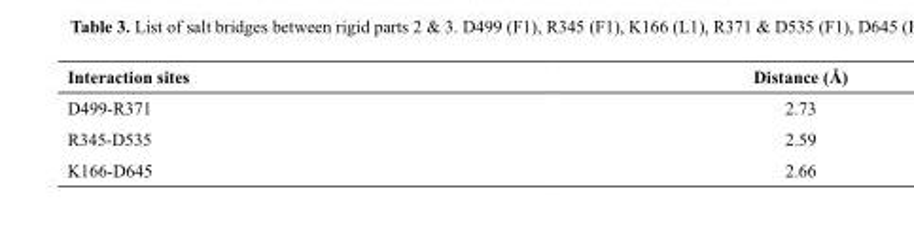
<table><thead><tr><td>Interaction sites</td><td>Distance (Å)</td></tr></thead><tbody><tr><td>D499-R371</td><td>2.73</td></tr><tr><td>R345-D535</td><td>2.59</td></tr><tr><td>K166-D645</td><td>2.66</td></tr></tbody></table>